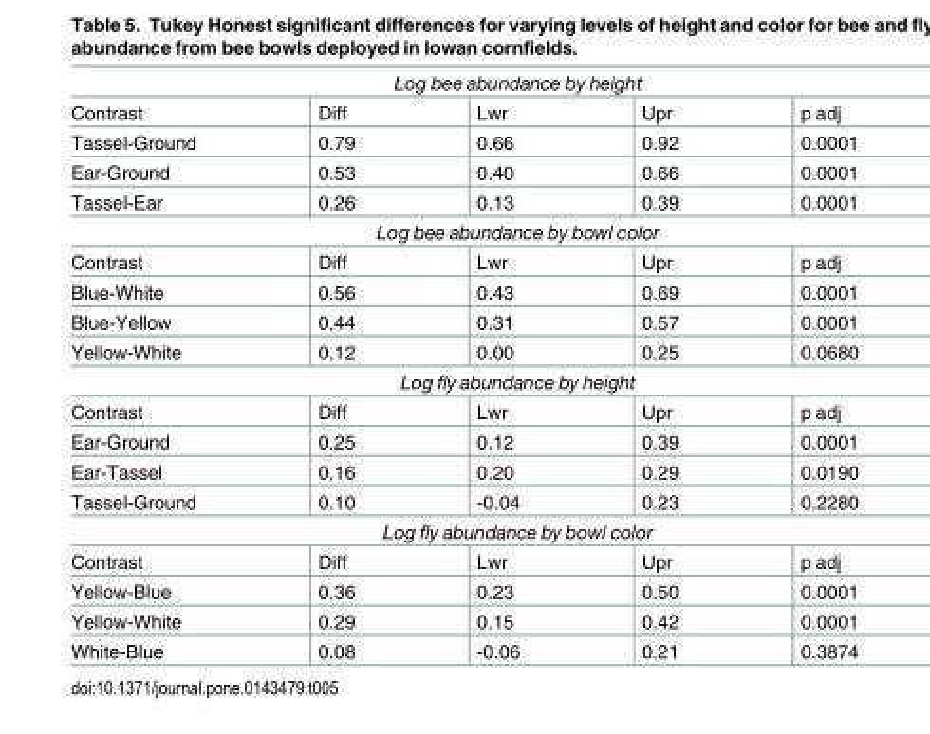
<table><tbody><tr><td colspan="5">Log bee abundance by height</td></tr><tr><td>Contrast</td><td>Diff</td><td>Lwr</td><td>Upr</td><td>p adj</td></tr><tr><td>Tassel-Ground</td><td>0.79</td><td>0.66</td><td>0.92</td><td>0.0001</td></tr><tr><td>Ear-Ground</td><td>0.53</td><td>0.40</td><td>0.66</td><td>0.0001</td></tr><tr><td>Tassel-Ear</td><td>0.26</td><td>0.13</td><td>0.39</td><td>0.0001</td></tr><tr><td colspan="5">Log bee abundance by bowl color</td></tr><tr><td>Contrast</td><td>Diff</td><td>Lwr</td><td>Upr</td><td>p adj</td></tr><tr><td>Blue-White</td><td>0.56</td><td>0.43</td><td>0.69</td><td>0.0001</td></tr><tr><td>Blue-Yellow</td><td>0.44</td><td>0.31</td><td>0.57</td><td>0.0001</td></tr><tr><td>Yellow-White</td><td>0.12</td><td>0.00</td><td>0.25</td><td>0.0680</td></tr><tr><td colspan="5">Log fly abundance by height</td></tr><tr><td>Contrast</td><td>Diff</td><td>Lwr</td><td>Upr</td><td>p adj</td></tr><tr><td>Ear-Ground</td><td>0.25</td><td>0.12</td><td>0.39</td><td>0.0001</td></tr><tr><td>Ear-Tassel</td><td>0.16</td><td>0.20</td><td>0.29</td><td>0.0190</td></tr><tr><td>Tassel-Ground</td><td>0.10</td><td>-0.04</td><td>0.23</td><td>0.2280</td></tr><tr><td colspan="5">Log fly abundance by bowl color</td></tr><tr><td>Contrast</td><td>Diff</td><td>Lwr</td><td>Upr</td><td>p adj</td></tr><tr><td>Yellow-Blue</td><td>0.36</td><td>0.23</td><td>0.50</td><td>0.0001</td></tr><tr><td>Yellow-White</td><td>0.29</td><td>0.15</td><td>0.42</td><td>0.0001</td></tr><tr><td>White-Blue</td><td>0.08</td><td>-0.06</td><td>0.21</td><td>0.3874</td></tr></tbody></table>